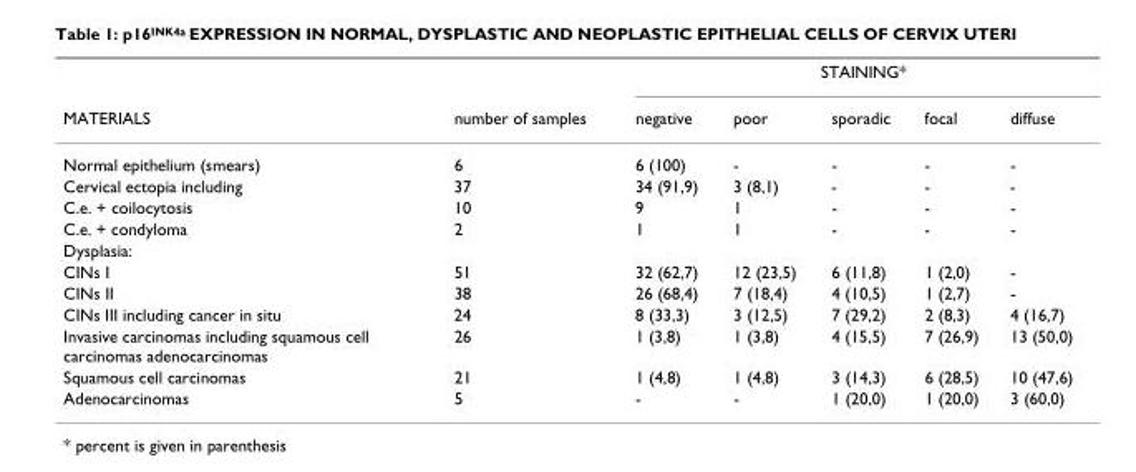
<table><thead><tr><td rowspan="2">MATERIALS</td><td rowspan="2">number of samples</td><td colspan="5">STAINING*</td></tr><tr><td>negative</td><td>poor</td><td>sporadic</td><td>focal</td><td>diffuse</td></tr></thead><tbody><tr><td>Normal epithelium (smears)</td><td>6</td><td>6 (100)</td><td>-</td><td>-</td><td>-</td><td>-</td></tr><tr><td>Cervical ectopia including</td><td>37</td><td>34 (91,9)</td><td>3 (8,1)</td><td>-</td><td>-</td><td>-</td></tr><tr><td>C.e. + coilocytosis</td><td>10</td><td>9</td><td>1</td><td>-</td><td>-</td><td>-</td></tr><tr><td>C.e. + condyloma</td><td>2</td><td>1</td><td>1</td><td>-</td><td>-</td><td>-</td></tr><tr><td colspan="7">Dysplasia:</td></tr><tr><td>CINs I</td><td>51</td><td>32 (62,7)</td><td>12 (23,5)</td><td>6 (11,8)</td><td>1 (2,0)</td><td>-</td></tr><tr><td>CINs II</td><td>38</td><td>26 (68,4)</td><td>7 (18,4)</td><td>4 (10,5)</td><td>1 (2,7)</td><td>-</td></tr><tr><td>CINs III including cancer in situ</td><td>24</td><td>8 (33,3)</td><td>3 (12,5)</td><td>7 (29,2)</td><td>2 (8,3)</td><td>4 (16,7)</td></tr><tr><td>Invasive carcinomas including squamous cell carcinomas adenocarcinomas</td><td>26</td><td>1 (3,8)</td><td>1 (3,8)</td><td>4 (15,5)</td><td>7 (26,9)</td><td>13 (50,0)</td></tr><tr><td>Squamous cell carcinomas</td><td>21</td><td>1 (4,8)</td><td>1 (4,8)</td><td>3 (14,3)</td><td>6 (28,5)</td><td>10 (47,6)</td></tr><tr><td>Adenocarcinomas</td><td>5</td><td>-</td><td>-</td><td>1 (20,0)</td><td>1 (20,0)</td><td>3 (60,0)</td></tr></tbody></table>